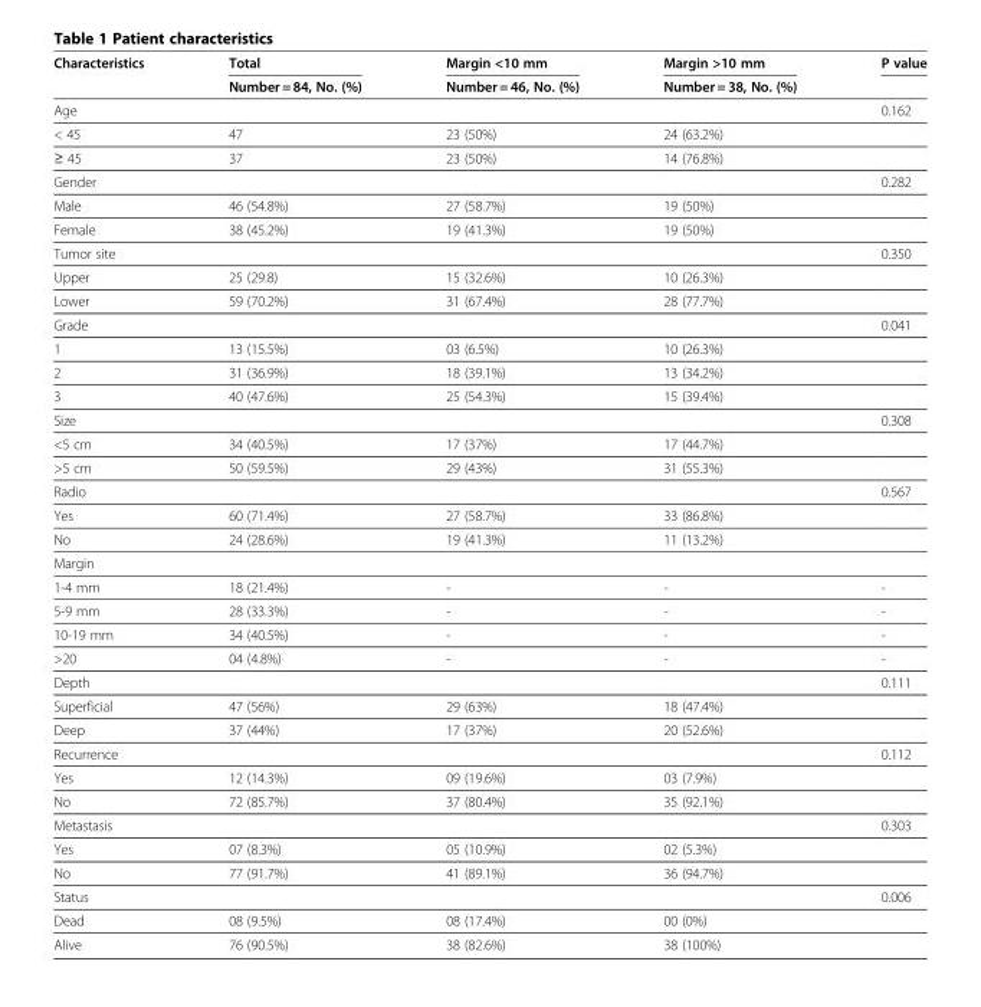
<table><thead><tr><td rowspan="2">Characteristics</td><td rowspan="2">Total Number = 84, No. (%)</td><td rowspan="2">Margin &lt;10 mm Number = 46, No. (%)</td><td rowspan="2">Margin &gt;10 mm Number = 38, No. (%)</td><td rowspan="2">P value</td></tr><tr></tr></thead><tbody><tr><td>Age</td><td></td><td></td><td></td><td>0.162</td></tr><tr><td>&lt; 45</td><td>47</td><td>23 (50%)</td><td>24 (63.2%)</td><td></td></tr><tr><td>≥ 45</td><td>37</td><td>23 (50%)</td><td>14 (76.8%)</td><td></td></tr><tr><td>Gender</td><td></td><td></td><td></td><td>0.282</td></tr><tr><td>Male</td><td>46 (54.8%)</td><td>27 (58.7%)</td><td>19 (50%)</td><td></td></tr><tr><td>Female</td><td>38 (45.2%)</td><td>19 (41.3%)</td><td>19 (50%)</td><td></td></tr><tr><td>Tumor site</td><td></td><td></td><td></td><td>0.350</td></tr><tr><td>Upper</td><td>25 (29.8)</td><td>15 (32.6%)</td><td>10 (26.3%)</td><td></td></tr><tr><td>Lower</td><td>59 (70.2%)</td><td>31 (67.4%)</td><td>28 (77.7%)</td><td></td></tr><tr><td>Grade</td><td></td><td></td><td></td><td>0.041</td></tr><tr><td>1</td><td>13 (15.5%)</td><td>03 (6.5%)</td><td>10 (26.3%)</td><td></td></tr><tr><td>2</td><td>31 (36.9%)</td><td>18 (39.1%)</td><td>13 (34.2%)</td><td></td></tr><tr><td>3</td><td>40 (47.6%)</td><td>25 (54.3%)</td><td>15 (39.4%)</td><td></td></tr><tr><td>Size</td><td></td><td></td><td></td><td>0.308</td></tr><tr><td>&lt;5 cm</td><td>34 (40.5%)</td><td>17 (37%)</td><td>17 (44.7%)</td><td></td></tr><tr><td>&gt;5 cm</td><td>50 (59.5%)</td><td>29 (43%)</td><td>31 (55.3%)</td><td></td></tr><tr><td>Radio</td><td></td><td></td><td></td><td>0.567</td></tr><tr><td>Yes</td><td>60 (71.4%)</td><td>27 (58.7%)</td><td>33 (86.8%)</td><td></td></tr><tr><td>No</td><td>24 (28.6%)</td><td>19 (41.3%)</td><td>11 (13.2%)</td><td></td></tr><tr><td colspan="5">Margin</td></tr><tr><td>1-4 mm</td><td>18 (21.4%)</td><td>-</td><td>-</td><td>-</td></tr><tr><td>5-9 mm</td><td>28 (33.3%)</td><td>-</td><td>-</td><td>-</td></tr><tr><td>10-19 mm</td><td>34 (40.5%)</td><td>-</td><td>-</td><td>-</td></tr><tr><td>&gt;20</td><td>04 (4.8%)</td><td>-</td><td>-</td><td>-</td></tr><tr><td>Depth</td><td></td><td></td><td></td><td>0.111</td></tr><tr><td>Superficial</td><td>47 (56%)</td><td>29 (63%)</td><td>18 (47.4%)</td><td></td></tr><tr><td>Deep</td><td>37 (44%)</td><td>17 (37%)</td><td>20 (52.6%)</td><td></td></tr><tr><td>Recurrence</td><td></td><td></td><td></td><td>0.112</td></tr><tr><td>Yes</td><td>12 (14.3%)</td><td>09 (19.6%)</td><td>03 (7.9%)</td><td></td></tr><tr><td>No</td><td>72 (85.7%)</td><td>37 (80.4%)</td><td>35 (92.1%)</td><td></td></tr><tr><td>Metastasis</td><td></td><td></td><td></td><td>0.303</td></tr><tr><td>Yes</td><td>07 (8.3%)</td><td>05 (10.9%)</td><td>02 (5.3%)</td><td></td></tr><tr><td>No</td><td>77 (91.7%)</td><td>41 (89.1%)</td><td>36 (94.7%)</td><td></td></tr><tr><td>Status</td><td></td><td></td><td></td><td>0.006</td></tr><tr><td>Dead</td><td>08 (9.5%)</td><td>08 (17.4%)</td><td>00 (0%)</td><td></td></tr><tr><td>Alive</td><td>76 (90.5%)</td><td>38 (82.6%)</td><td>38 (100%)</td><td></td></tr></tbody></table>